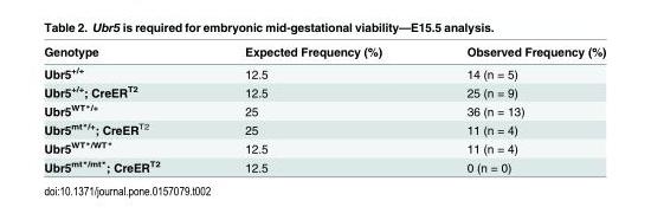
<table><thead><tr><td>Genotype</td><td>Expected Frequency (%)</td><td>Observed Frequency (%)</td></tr></thead><tbody><tr><td>Ubr5<sup>+/+</sup></td><td>12.5</td><td>14 (n = 5)</td></tr><tr><td>Ubr5<sup>+/+</sup>; CreER<sup>T2</sup></td><td>12.5</td><td>25 (n = 9)</td></tr><tr><td>Ubr5<sup>WT*/+</sup></td><td>25</td><td>36 (n = 13)</td></tr><tr><td>Ubr5<sup>mt*/+</sup>; CreER<sup>T2</sup></td><td>25</td><td>11 (n = 4)</td></tr><tr><td>Ubr5<sup>WT*/WT*</sup></td><td>12.5</td><td>11 (n = 4)</td></tr><tr><td>Ubr5<sup>mt*/mt*</sup>; CreER<sup>T2</sup></td><td>12.5</td><td>0 (n = 0)</td></tr></tbody></table>